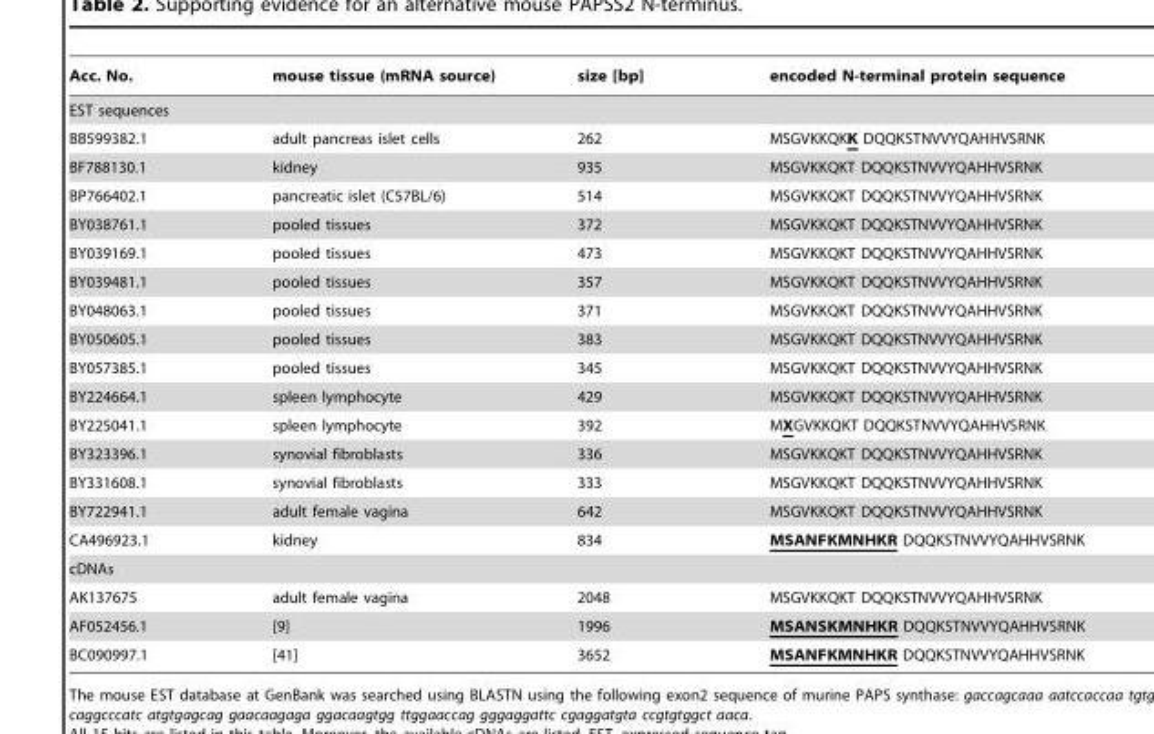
<table><thead><tr><td>Acc. No.</td><td>mouse tissue (mRNA source)</td><td>size [bp]</td><td>encoded N-terminal protein sequence</td></tr></thead><tbody><tr><td colspan="4">EST sequences</td></tr><tr><td>BB599382.1</td><td>adult pancreas islet cells</td><td>262</td><td>MSGVKKQKK DQQKSTNVVYQAHHVSRNK</td></tr><tr><td>BF788130.1</td><td>kidney</td><td>935</td><td>MSGVKKQKT DQQKSTNVVYQAHHVSRNK</td></tr><tr><td>BP766402.1</td><td>pancreatic islet (C57BL/6)</td><td>514</td><td>MSGVKKQKT DQQKSTNVVYQAHHVSRNK</td></tr><tr><td>BY038761.1</td><td>pooled tissues</td><td>372</td><td>MSGVKKQKT DQQKSTNVVYQAHHVSRNK</td></tr><tr><td>BY039169.1</td><td>pooled tissues</td><td>473</td><td>MSGVKKQKT DQQKSTNVVYQAHHVSRNK</td></tr><tr><td>BY039481.1</td><td>pooled tissues</td><td>357</td><td>MSGVKKQKT DQQKSTNVVYQAHHVSRNK</td></tr><tr><td>BY048063.1</td><td>pooled tissues</td><td>371</td><td>MSGVKKQKT DQQKSTNVVYQAHHVSRNK</td></tr><tr><td>BY050605.1</td><td>pooled tissues</td><td>383</td><td>MSGVKKQKT DQQKSTNVVYQAHHVSRNK</td></tr><tr><td>BY057385.1</td><td>pooled tissues</td><td>345</td><td>MSGVKKQKT DQQKSTNVVYQAHHVSRNK</td></tr><tr><td>BY224664.1</td><td>spleen lymphocyte</td><td>429</td><td>MSGVKKQKT DQQKSTNVVYQAHHVSRNK</td></tr><tr><td>BY225041.1</td><td>spleen lymphocyte</td><td>392</td><td>MXGVKKQKT DQQKSTNVVYQAHHVSRNK</td></tr><tr><td>BY323396.1</td><td>synovial fibroblasts</td><td>336</td><td>MSGVKKQKT DQQKSTNVVYQAHHVSRNK</td></tr><tr><td>BY331608.1</td><td>synovial fibroblasts</td><td>333</td><td>MSGVKKQKT DQQKSTNVVYQAHHVSRNK</td></tr><tr><td>BY722941.1</td><td>adult female vagina</td><td>642</td><td>MSGVKKQKT DQQKSTNVVYQAHHVSRNK</td></tr><tr><td>CA496923.1</td><td>kidney</td><td>834</td><td>MSANFKMNHKR DQQKSTNVVYQAHHVSRNK</td></tr><tr><td colspan="4">cDNAs</td></tr><tr><td>AK137675</td><td>adult female vagina</td><td>2048</td><td>MSGVKKQKT DQQKSTNVVYQAHHVSRNK</td></tr><tr><td>AF052456.1</td><td>[9]</td><td>1996</td><td>MSANSKMNHKR DQQKSTNVVYQAHHVSRNK</td></tr><tr><td>BC090997.1</td><td>[41]</td><td>3652</td><td>MSANFKMNHKR DQQKSTNVVYQAHHVSRNK</td></tr></tbody></table>